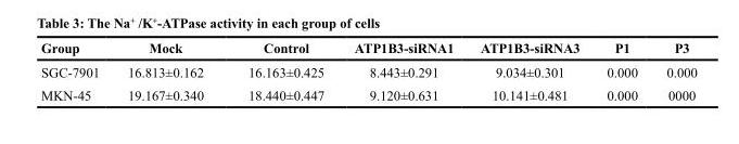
<table><thead><tr><td>Group</td><td>Mock</td><td>Control</td><td>ATP1B3-siRNA1</td><td>ATP1B3-siRNA3</td><td>P1</td><td>P3</td></tr></thead><tbody><tr><td>SGC-7901</td><td>16.813±0.162</td><td>16.163±0.425</td><td>8.443±0.291</td><td>9.034±0.301</td><td>0.000</td><td>0.000</td></tr><tr><td>MKN-45</td><td>19.167±0.340</td><td>18.440±0.447</td><td>9.120±0.631</td><td>10.141±0.481</td><td>0.000</td><td>0000</td></tr></tbody></table>